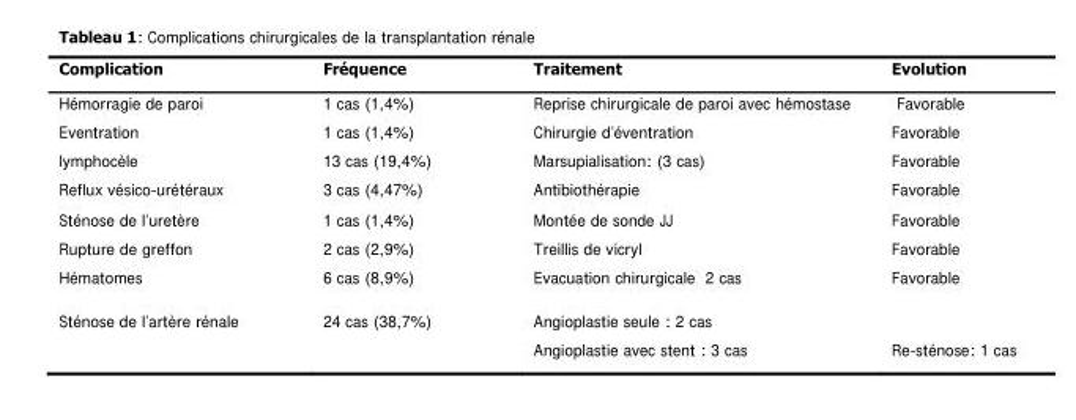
<table><thead><tr><td rowspan="10">Complication Hémorragie de paroi Eventration lymphocèle Reflux vésico-urétéraux Sténose de l’uretère Rupture de greffon Hématomes Sténose de l’artère rénale</td><td rowspan="10">Fréquence 1 cas (1,4%) 1 cas (1,4%) 13 cas (19,4%) 3 cas (4,47%) 1 cas (1,4%) 2 cas (2,9%) 6 cas (8,9%) 24 cas (38,7%)</td><td rowspan="10">Traitement Reprise chirurgicale de paroi avec hémostase Chirurgie d’éventration Marsupialisation: (3 cas) Antibiothérapie Montée de sonde JJ Treillis de vicryl Evacuation chirurgicale 2 cas Angioplastie seule : 2 cas Angioplastie avec stent : 3 cas</td><td rowspan="10">Evolution Favorable Favorable Favorable Favorable Favorable Favorable Favorable Re-sténose: 1 cas</td></tr><tr></tr><tr></tr><tr></tr><tr></tr><tr></tr><tr></tr><tr></tr><tr></tr><tr></tr></thead><tbody></tbody></table>